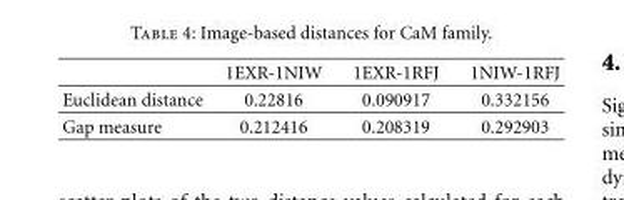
<table><thead><tr><td></td><td>1EXR-1NIW</td><td>1EXR-1RFJ</td><td>1NIW-1RFJ</td></tr></thead><tbody><tr><td>Euclidean distance</td><td>0.22816</td><td>0.090917</td><td>0.332156</td></tr><tr><td>Gap measure</td><td>0.212416</td><td>0.208319</td><td>0.292903</td></tr></tbody></table>